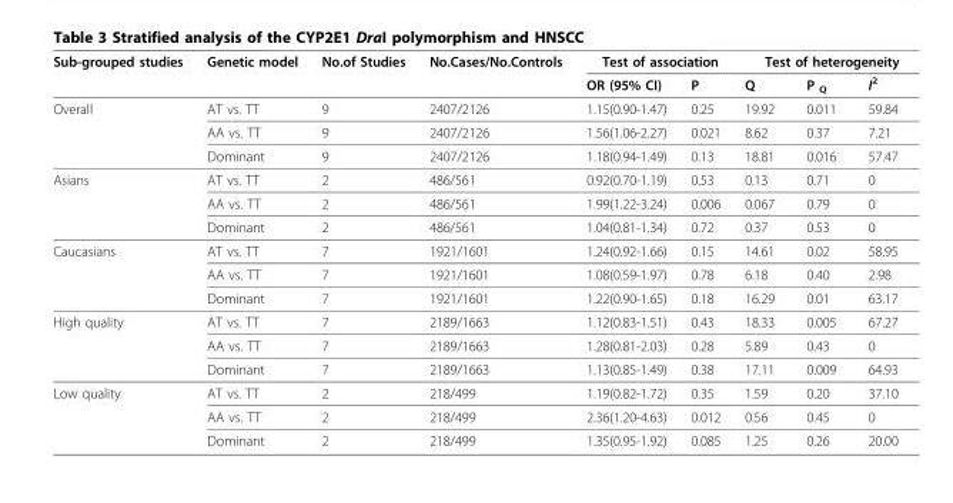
<table><thead><tr><td rowspan="2">Sub-grouped studies</td><td rowspan="2">Genetic model</td><td rowspan="2">No.of Studies</td><td rowspan="2">No.Cases/No.Controls</td><td colspan="2">Test of association</td><td colspan="3">Test of heterogeneity</td></tr><tr><td>OR (95% CI)</td><td>P</td><td>Q</td><td>P <sub>Q</sub></td><td>I<sup>2</sup></td></tr></thead><tbody><tr><td rowspan="3">Overall</td><td>AT vs. TT</td><td>9</td><td>2407/2126</td><td>1.15(0.90-1.47)</td><td>0.25</td><td>19.92</td><td>0.011</td><td>59.84</td></tr><tr><td>AA vs. TT</td><td>9</td><td>2407/2126</td><td>1.56(1.06-2.27)</td><td>0.021</td><td>8.62</td><td>0.37</td><td>7.21</td></tr><tr><td>Dominant</td><td>9</td><td>2407/2126</td><td>1.18(0.94-1.49)</td><td>0.13</td><td>18.81</td><td>0.016</td><td>57.47</td></tr><tr><td rowspan="3">Asians</td><td>AT vs. TT</td><td>2</td><td>486/561</td><td>0.92(0.70-1.19)</td><td>0.53</td><td>0.13</td><td>0.71</td><td>0</td></tr><tr><td>AA vs. TT</td><td>2</td><td>486/561</td><td>1.99(1.22-3.24)</td><td>0.006</td><td>0.067</td><td>0.79</td><td>0</td></tr><tr><td>Dominant</td><td>2</td><td>486/561</td><td>1.04(0.81-1.34)</td><td>0.72</td><td>0.37</td><td>0.53</td><td>0</td></tr><tr><td rowspan="3">Caucasians</td><td>AT vs. TT</td><td>7</td><td>1921/1601</td><td>1.24(0.92-1.66)</td><td>0.15</td><td>14.61</td><td>0.02</td><td>58.95</td></tr><tr><td>AA vs. TT</td><td>7</td><td>1921/1601</td><td>1.08(0.59-1.97)</td><td>0.78</td><td>6.18</td><td>0.40</td><td>2.98</td></tr><tr><td>Dominant</td><td>7</td><td>1921/1601</td><td>1.22(0.90-1.65)</td><td>0.18</td><td>16.29</td><td>0.01</td><td>63.17</td></tr><tr><td rowspan="3">High quality</td><td>AT vs. TT</td><td>7</td><td>2189/1663</td><td>1.12(0.83-1.51)</td><td>0.43</td><td>18.33</td><td>0.005</td><td>67.27</td></tr><tr><td>AA vs. TT</td><td>7</td><td>2189/1663</td><td>1.28(0.81-2.03)</td><td>0.28</td><td>5.89</td><td>0.43</td><td>0</td></tr><tr><td>Dominant</td><td>7</td><td>2189/1663</td><td>1.13(0.85-1.49)</td><td>0.38</td><td>17.11</td><td>0.009</td><td>64.93</td></tr><tr><td rowspan="3">Low quality</td><td>AT vs. TT</td><td>2</td><td>218/499</td><td>1.19(0.82-1.72)</td><td>0.35</td><td>1.59</td><td>0.20</td><td>37.10</td></tr><tr><td>AA vs. TT</td><td>2</td><td>218/499</td><td>2.36(1.20-4.63)</td><td>0.012</td><td>0.56</td><td>0.45</td><td>0</td></tr><tr><td>Dominant</td><td>2</td><td>218/499</td><td>1.35(0.95-1.92)</td><td>0.085</td><td>1.25</td><td>0.26</td><td>20.00</td></tr></tbody></table>